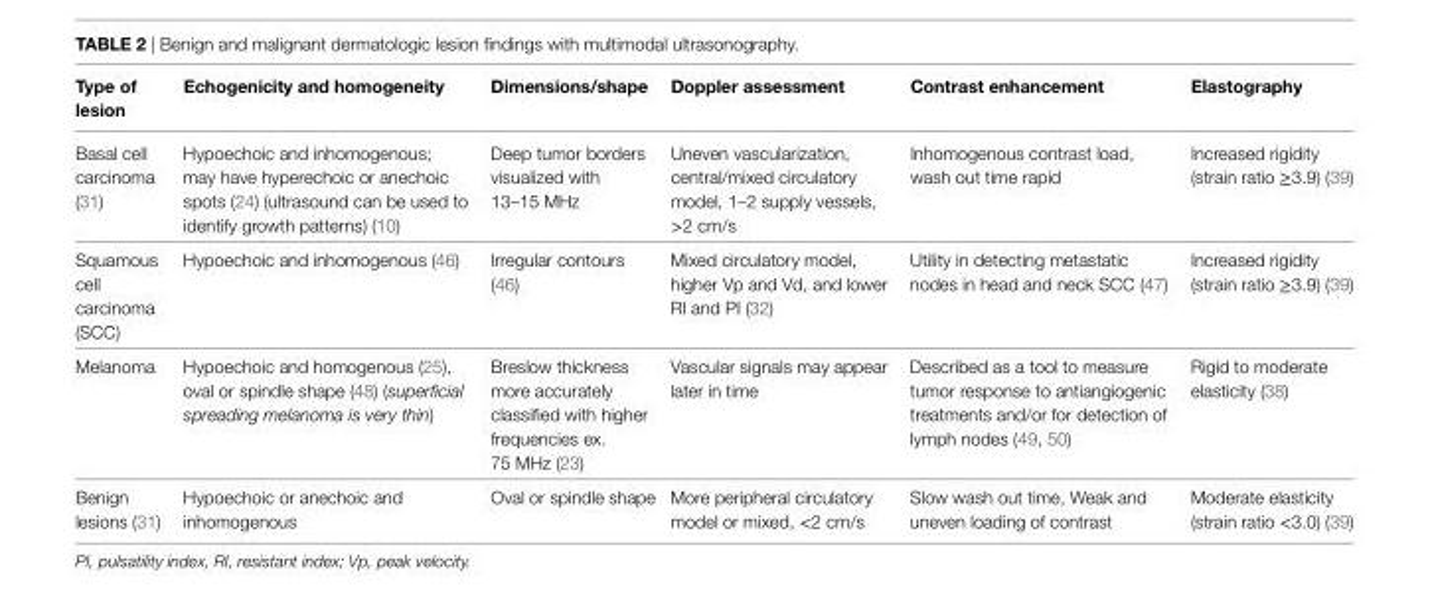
<table><thead><tr><td>Type of lesion</td><td>echogenicity and homogeneity</td><td>Dimensions/shape</td><td>Doppler assessment</td><td>Contrast enhancement</td><td>elastography</td></tr></thead><tbody><tr><td>Basal cell carcinoma (31)</td><td>Hypoechoic and inhomogenous; may have hyperechoic or anechoic spots (24) (ultrasound can be used to identify growth patterns) (10)</td><td>Deep tumor borders visualized with 13–15 MHz</td><td>Uneven vascularization, central/mixed circulatory model, 1–2 supply vessels, &gt;2 cm/s</td><td>Inhomogenous contrast load, wash out time rapid</td><td>Increased rigidity (strain ratio ≥3.9) (39)</td></tr><tr><td>Squamous cell carcinoma (SCC)</td><td>Hypoechoic and inhomogenous (46)</td><td>Irregular contours (46)</td><td>Mixed circulatory model, higher Vp and Vd, and lower RI and PI (32)</td><td>Utility in detecting metastatic nodes in head and neck SCC (47)</td><td>Increased rigidity (strain ratio ≥3.9) (39)</td></tr><tr><td>Melanoma</td><td>Hypoechoic and homogenous (25), oval or spindle shape (48) (superficial spreading melanoma is very thin)</td><td>Breslow thickness more accurately classified with higher frequencies ex. 75 MHz (23)</td><td>Vascular signals may appear later in time</td><td>Described as a tool to measure tumor response to antiangiogenic treatments and/or for detection of lymph nodes (49, 50)</td><td>Rigid to moderate elasticity (38)</td></tr><tr><td>Benign lesions (31)</td><td>Hypoechoic or anechoic and inhomogenous</td><td>Oval or spindle shape</td><td>More peripheral circulatory model or mixed, &lt;2 cm/s</td><td>Slow wash out time, Weak and uneven loading of contrast</td><td>Moderate elasticity (strain ratio &lt;3.0) (39)</td></tr></tbody></table>